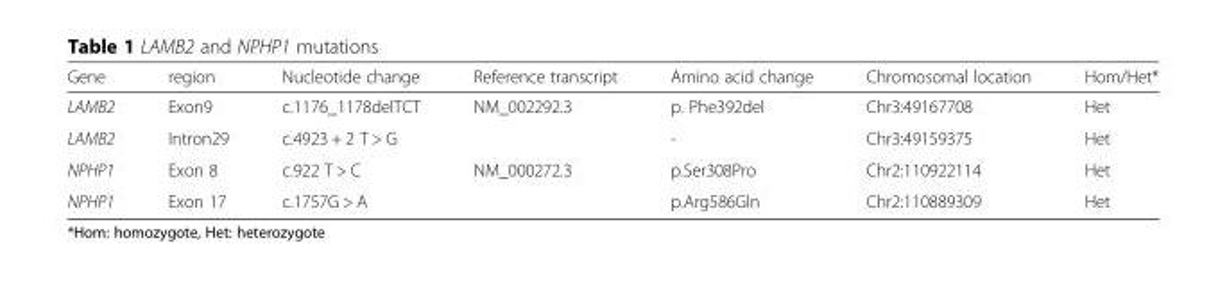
<table><thead><tr><td>Gene</td><td>region</td><td>Nucleotide change</td><td>Reference transcript</td><td>Amino acid change</td><td>Chromosomal location</td><td>Hom/Het*</td></tr></thead><tbody><tr><td>LAMB2</td><td>Exon9</td><td>c.1176_1178delTCT</td><td rowspan="2">NM_002292.3</td><td>p. Phe392del</td><td>Chr3:49167708</td><td>Het</td></tr><tr><td>LAMB2</td><td>Intron29</td><td>c.4923 + 2 T &gt; G</td><td>-</td><td>Chr3:49159375</td><td>Het</td></tr><tr><td>NPHP1</td><td>Exon 8</td><td>c.922 T &gt; C</td><td rowspan="2">NM_000272.3</td><td>p.Ser308Pro</td><td>Chr2:110922114</td><td>Het</td></tr><tr><td>NPHP1</td><td>Exon 17</td><td>c.1757G &gt; A</td><td>p.Arg586Gln</td><td>Chr2:110889309</td><td>Het</td></tr></tbody></table>